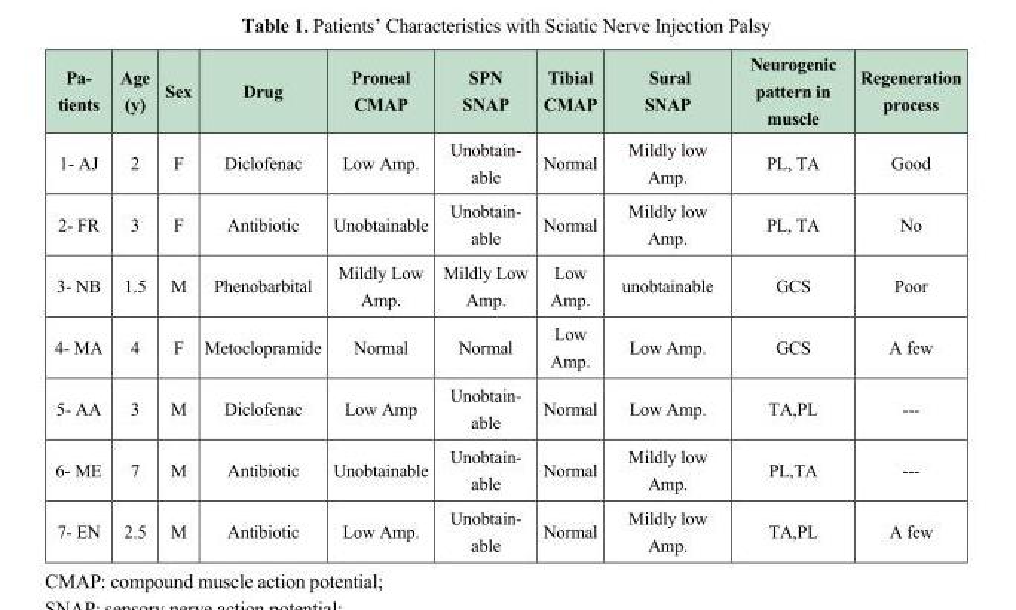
<table><thead><tr><td>Pa- tients</td><td>Age (y)</td><td>Sex</td><td>Drug</td><td>Proneal CMAP</td><td>SPN SNAP</td><td>Tibial CMAP</td><td>Sural SNAP</td><td>Neurogenic pattern in muscle</td><td>Regeneration process</td></tr></thead><tbody><tr><td>1- AJ</td><td>2</td><td>F</td><td>Diclofenac</td><td>Low Amp.</td><td>Unobtain- able</td><td>Normal</td><td>Mildly low Amp.</td><td>PL, TA</td><td>Good</td></tr><tr><td>2- FR</td><td>3</td><td>F</td><td>Antibiotic</td><td>Unobtainable</td><td>Unobtain- able</td><td>Normal</td><td>Mildly low Amp.</td><td>PL, TA</td><td>No</td></tr><tr><td>3- NB</td><td>1.5</td><td>M</td><td>Phenobarbital</td><td>Mildly Low Amp.</td><td>Mildly Low Amp.</td><td>Low Amp.</td><td>unobtainable</td><td>GCS</td><td>Poor</td></tr><tr><td>4- MA</td><td>4</td><td>F</td><td>Metoclopramide</td><td>Normal</td><td>Normal</td><td>Low Amp.</td><td>Low Amp.</td><td>GCS</td><td>A few</td></tr><tr><td>5- AA</td><td>3</td><td>M</td><td>Diclofenac</td><td>Low Amp</td><td>Unobtain- able</td><td>Normal</td><td>Low Amp.</td><td>TA,PL</td><td>---</td></tr><tr><td>6- ME</td><td>7</td><td>M</td><td>Antibiotic</td><td>Unobtainable</td><td>Unobtain- able</td><td>Normal</td><td>Mildly low Amp.</td><td>PL,TA</td><td>---</td></tr><tr><td>7- EN</td><td>2.5</td><td>M</td><td>Antibiotic</td><td>Low Amp.</td><td>Unobtain- able</td><td>Normal</td><td>Mildly low Amp.</td><td>TA,PL</td><td>A few</td></tr></tbody></table>